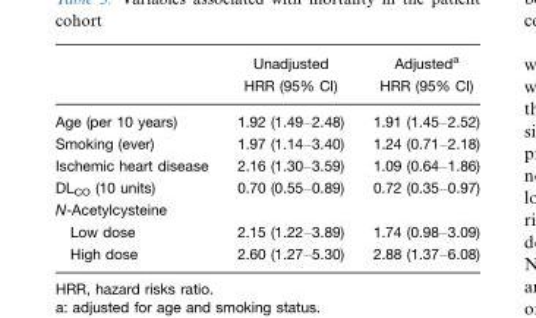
<table><thead><tr><td rowspan="2"></td><td rowspan="2">Unadjusted HRR (95% CI)</td><td rowspan="2">Adjusted<sup>a</sup> HRR (95% CI)</td></tr><tr></tr></thead><tbody><tr><td>Age (per 10 years)</td><td>1.92 (1.49–2.48)</td><td>1.91 (1.45–2.52)</td></tr><tr><td>Smoking (ever)</td><td>1.97 (1.14–3.40)</td><td>1.24 (0.71–2.18)</td></tr><tr><td>Ischemic heart disease</td><td>2.16 (1.30–3.59)</td><td>1.09 (0.64–1.86)</td></tr><tr><td>DL<sub>CO</sub> (10 units)</td><td>0.70 (0.55–0.89)</td><td>0.72 (0.35–0.97)</td></tr><tr><td colspan="3">N-Acetylcysteine</td></tr><tr><td>Low dose</td><td>2.15 (1.22–3.89)</td><td>1.74 (0.98–3.09)</td></tr><tr><td>High dose</td><td>2.60 (1.27–5.30)</td><td>2.88 (1.37–6.08)</td></tr></tbody></table>